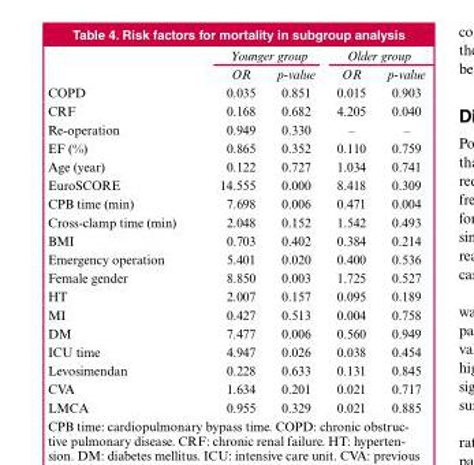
<table><thead><tr><td rowspan="2"></td><td colspan="2">Younger group</td><td colspan="2">Older group</td></tr><tr><td>OR</td><td>p-value</td><td>OR</td><td>p-value</td></tr></thead><tbody><tr><td>COPD</td><td>0.035</td><td>0.851</td><td>0.015</td><td>0.903</td></tr><tr><td>CRF</td><td>0.168</td><td>0.682</td><td>4.205</td><td>0.040</td></tr><tr><td>Re-operation</td><td>0.949</td><td>0.330</td><td>–</td><td>–</td></tr><tr><td>EF (%)</td><td>0.865</td><td>0.352</td><td>0.110</td><td>0.759</td></tr><tr><td>Age (year)</td><td>0.122</td><td>0.727</td><td>1.034</td><td>0.741</td></tr><tr><td>EuroSCORE</td><td>14.555</td><td>0.000</td><td>8.418</td><td>0.309</td></tr><tr><td>CPB time (min)</td><td>7.698</td><td>0.006</td><td>0.471</td><td>0.004</td></tr><tr><td>Cross-clamp time (min)</td><td>2.048</td><td>0.152</td><td>1.542</td><td>0.493</td></tr><tr><td>BMI</td><td>0.703</td><td>0.402</td><td>0.384</td><td>0.214</td></tr><tr><td>Emergency operation</td><td>5.401</td><td>0.020</td><td>0.400</td><td>0.536</td></tr><tr><td>Female gender</td><td>8.850</td><td>0.003</td><td>1.725</td><td>0.527</td></tr><tr><td>HT</td><td>2.007</td><td>0.157</td><td>0.095</td><td>0.189</td></tr><tr><td>MI</td><td>0.427</td><td>0.513</td><td>0.004</td><td>0.758</td></tr><tr><td>DM</td><td>7.477</td><td>0.006</td><td>0.560</td><td>0.949</td></tr><tr><td>ICU time</td><td>4.947</td><td>0.026</td><td>0.038</td><td>0.454</td></tr><tr><td>Levosimendan</td><td>0.228</td><td>0.633</td><td>0.131</td><td>0.845</td></tr><tr><td>CVA</td><td>1.634</td><td>0.201</td><td>0.021</td><td>0.717</td></tr><tr><td>LMCA</td><td>0.955</td><td>0.329</td><td>0.021</td><td>0.885</td></tr></tbody></table>